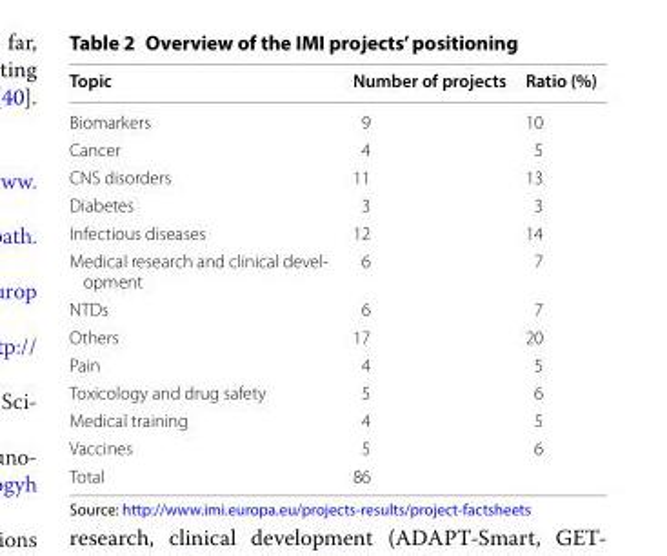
<table><thead><tr><td>Topic</td><td>Number of projects</td><td>Ratio (%)</td></tr></thead><tbody><tr><td>Biomarkers</td><td>9</td><td>10</td></tr><tr><td>Cancer</td><td>4</td><td>5</td></tr><tr><td>CNS disorders</td><td>11</td><td>13</td></tr><tr><td>Diabetes</td><td>3</td><td>3</td></tr><tr><td>Infectious diseases</td><td>12</td><td>14</td></tr><tr><td>Medical research and clinical devel- opment</td><td>6</td><td>7</td></tr><tr><td>NTDs</td><td>6</td><td>7</td></tr><tr><td>Others</td><td>17</td><td>20</td></tr><tr><td>Pain</td><td>4</td><td>5</td></tr><tr><td>Toxicology and drug safety</td><td>5</td><td>6</td></tr><tr><td>Medical training</td><td>4</td><td>5</td></tr><tr><td>Vaccines</td><td>5</td><td>6</td></tr><tr><td>Total</td><td>86</td><td></td></tr></tbody></table>